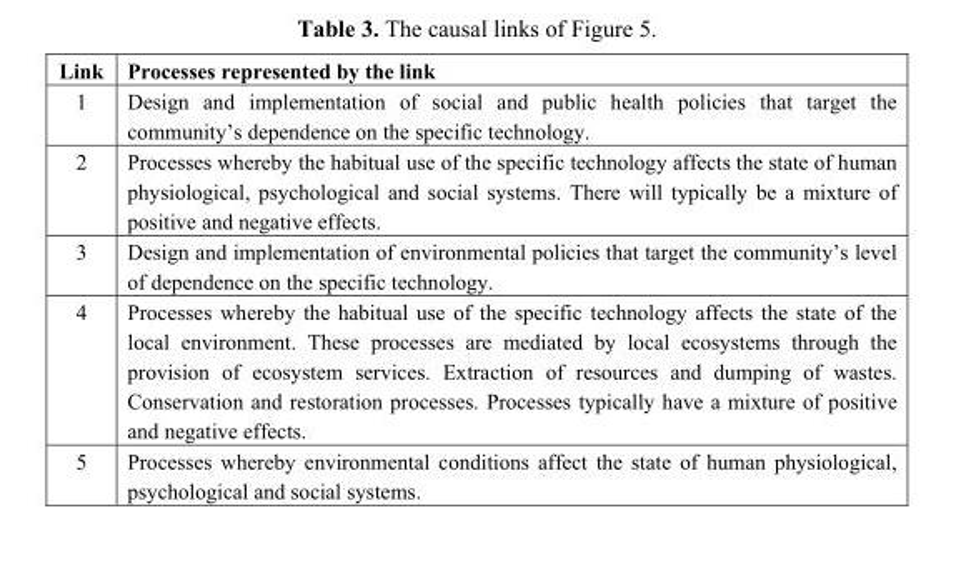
<table><thead><tr><td>Link</td><td>Processes represented by the link</td></tr></thead><tbody><tr><td>1</td><td>Design and implementation of social and public health policies that target the community’s dependence on the specific technology.</td></tr><tr><td>2</td><td>Processes whereby the habitual use of the specific technology affects the state of human physiological, psychological and social systems. There will typically be a mixture of positive and negative effects.</td></tr><tr><td>3</td><td>Design and implementation of environmental policies that target the community’s level of dependence on the specific technology.</td></tr><tr><td>4</td><td>Processes whereby the habitual use of the specific technology affects the state of the local environment. These processes are mediated by local ecosystems through the provision of ecosystem services. Extraction of resources and dumping of wastes. Conservation and restoration processes. Processes typically have a mixture of positive and negative effects.</td></tr><tr><td>5</td><td>Processes whereby environmental conditions affect the state of human physiological, psychological and social systems.</td></tr></tbody></table>